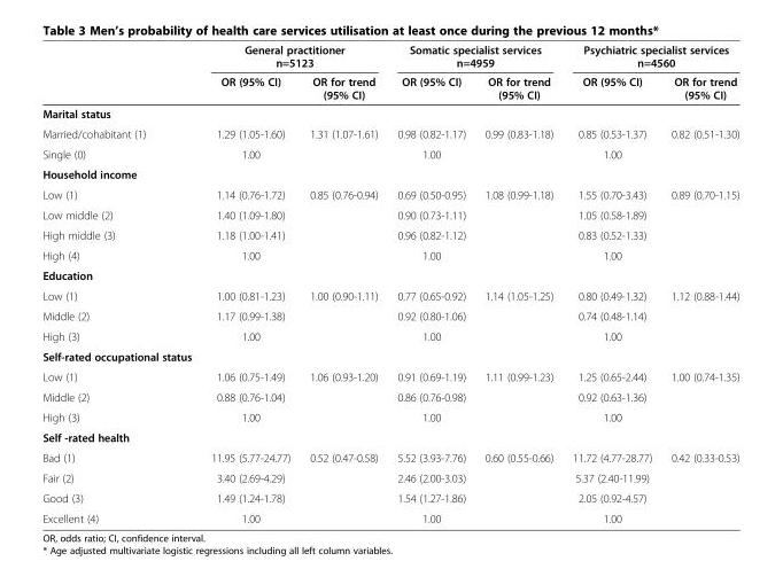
<table><thead><tr><td rowspan="2"></td><td colspan="2">General practitioner n=5123</td><td colspan="2">Somatic specialist services n=4959</td><td colspan="2">Psychiatric specialist services n=4560</td></tr><tr><td>OR (95% CI)</td><td>OR for trend (95% CI)</td><td>OR (95% CI)</td><td>OR for trend (95% CI)</td><td>OR (95% CI)</td><td>OR for trend (95% CI)</td></tr></thead><tbody><tr><td colspan="7">Marital status</td></tr><tr><td>Married/cohabitant (1)</td><td>1.29 (1.05-1.60)</td><td>1.31 (1.07-1.61)</td><td>0.98 (0.82-1.17)</td><td>0.99 (0.83-1.18)</td><td>0.85 (0.53-1.37)</td><td>0.82 (0.51-1.30)</td></tr><tr><td>Single (0)</td><td>1.00</td><td></td><td>1.00</td><td></td><td>1.00</td><td></td></tr><tr><td colspan="7">Household income</td></tr><tr><td>Low (1)</td><td>1.14 (0.76-1.72)</td><td>0.85 (0.76-0.94)</td><td>0.69 (0.50-0.95)</td><td>1.08 (0.99-1.18)</td><td>1.55 (0.70-3.43)</td><td>0.89 (0.70-1.15)</td></tr><tr><td>Low middle (2)</td><td>1.40 (1.09-1.80)</td><td></td><td>0.90 (0.73-1.11)</td><td></td><td>1.05 (0.58-1.89)</td><td></td></tr><tr><td>High middle (3)</td><td>1.18 (1.00-1.41)</td><td></td><td>0.96 (0.82-1.12)</td><td></td><td>0.83 (0.52-1.33)</td><td></td></tr><tr><td>High (4)</td><td>1.00</td><td></td><td>1.00</td><td></td><td>1.00</td><td></td></tr><tr><td colspan="7">Education</td></tr><tr><td>Low (1)</td><td>1.00 (0.81-1.23)</td><td>1.00 (0.90-1.11)</td><td>0.77 (0.65-0.92)</td><td>1.14 (1.05-1.25)</td><td>0.80 (0.49-1.32)</td><td>1.12 (0.88-1.44)</td></tr><tr><td>Middle (2)</td><td>1.17 (0.99-1.38)</td><td></td><td>0.92 (0.80-1.06)</td><td></td><td>0.74 (0.48-1.14)</td><td></td></tr><tr><td>High (3)</td><td>1.00</td><td></td><td>1.00</td><td></td><td>1.00</td><td></td></tr><tr><td colspan="7">Self-rated occupational status</td></tr><tr><td>Low (1)</td><td>1.06 (0.75-1.49)</td><td>1.06 (0.93-1.20)</td><td>0.91 (0.69-1.19)</td><td>1.11 (0.99-1.23)</td><td>1.25 (0.65-2.44)</td><td>1.00 (0.74-1.35)</td></tr><tr><td>Middle (2)</td><td>0.88 (0.76-1.04)</td><td></td><td>0.86 (0.76-0.98)</td><td></td><td>0.92 (0.63-1.36)</td><td></td></tr><tr><td>High (3)</td><td>1.00</td><td></td><td>1.00</td><td></td><td>1.00</td><td></td></tr><tr><td colspan="7">Self -rated health</td></tr><tr><td>Bad (1)</td><td>11.95 (5.77-24.77)</td><td>0.52 (0.47-0.58)</td><td>5.52 (3.93-7.76)</td><td>0.60 (0.55-0.66)</td><td>11.72 (4.77-28.77)</td><td>0.42 (0.33-0.53)</td></tr><tr><td>Fair (2)</td><td>3.40 (2.69-4.29)</td><td></td><td>2.46 (2.00-3.03)</td><td></td><td>5.37 (2.40-11.99)</td><td></td></tr><tr><td>Good (3)</td><td>1.49 (1.24-1.78)</td><td></td><td>1.54 (1.27-1.86)</td><td></td><td>2.05 (0.92-4.57)</td><td></td></tr><tr><td>Excellent (4)</td><td>1.00</td><td></td><td>1.00</td><td></td><td>1.00</td><td></td></tr></tbody></table>